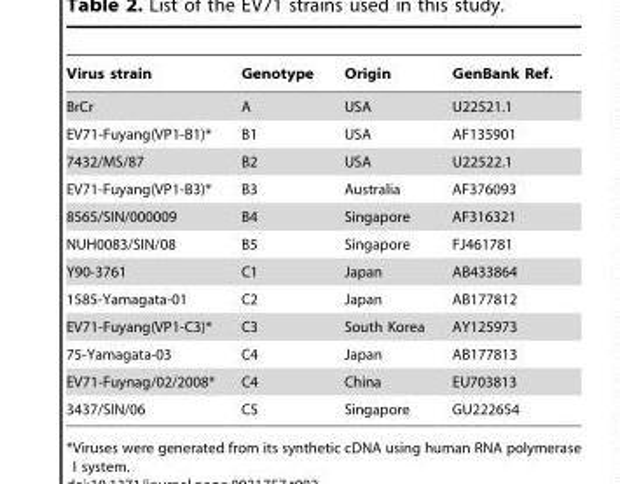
<table><thead><tr><td>Virus strain</td><td>Genotype</td><td>Origin</td><td>GenBank Ref.</td></tr></thead><tbody><tr><td>BrCr</td><td>A</td><td>USA</td><td>U22521.1</td></tr><tr><td>EV71-Fuyang(VP1-B1)*</td><td>B1</td><td>USA</td><td>AF135901</td></tr><tr><td>7432/MS/87</td><td>B2</td><td>USA</td><td>U22522.1</td></tr><tr><td>EV71-Fuyang(VP1-B3)*</td><td>B3</td><td>Australia</td><td>AF376093</td></tr><tr><td>8565/SIN/000009</td><td>B4</td><td>Singapore</td><td>AF316321</td></tr><tr><td>NUH0083/SIN/08</td><td>B5</td><td>Singapore</td><td>FJ461781</td></tr><tr><td>Y90-3761</td><td>C1</td><td>Japan</td><td>AB433864</td></tr><tr><td>1585-Yamagata-01</td><td>C2</td><td>Japan</td><td>AB177812</td></tr><tr><td>EV71-Fuyang(VP1-C3)*</td><td>C3</td><td>South Korea</td><td>AY125973</td></tr><tr><td>75-Yamagata-03</td><td>C4</td><td>Japan</td><td>AB177813</td></tr><tr><td>EV71-Fuynag/02/2008*</td><td>C4</td><td>China</td><td>EU703813</td></tr><tr><td>3437/SIN/06</td><td>C5</td><td>Singapore</td><td>GU222654</td></tr></tbody></table>